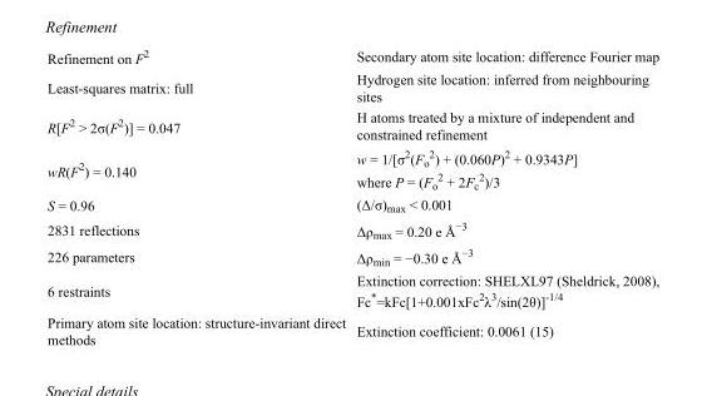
<table><tbody><tr><td>Refinement on F<sup>2</sup></td><td>Secondary atom site location: difference Fourier map</td></tr><tr><td>Least-squares matrix: full</td><td>Hydrogen site location: inferred from neighbouring sites</td></tr><tr><td>R[F<sup>2</sup> &gt; 2σ(F<sup>2</sup>)] = 0.047</td><td>H atoms treated by a mixture of independent and constrained refinement</td></tr><tr><td>wR(F<sup>2</sup>) = 0.140</td><td>w = 1/[σ<sup>2</sup>(F<sub>o</sub> <sup>2</sup>) + (0.060P)<sup>2</sup> + 0.9343P] where P = (F<sub>o</sub> <sup>2</sup> + 2F<sub>c</sub> <sup>2</sup>)/3</td></tr><tr><td>S = 0.96</td><td>(Δ/σ)<sub>max</sub> &lt; 0.001</td></tr><tr><td>2831 reflections</td><td>Δρ<sub>max</sub> = 0.20 e Å<sup>−3</sup></td></tr><tr><td>226 parameters</td><td>Δρ<sub>min</sub> = −0.30 e Å<sup>−3</sup></td></tr><tr><td>6 restraints</td><td>Extinction correction: SHELXL97 (Sheldrick, 2008), Fc*=kFc[1+0.001xFc<sup>2</sup>λ<sup>3</sup>/sin(2θ)]<sup>-1/4</sup></td></tr><tr><td>Primary atom site location: structure-invariant direct methods</td><td>Extinction coefficient: 0.0061 (15)</td></tr></tbody></table>